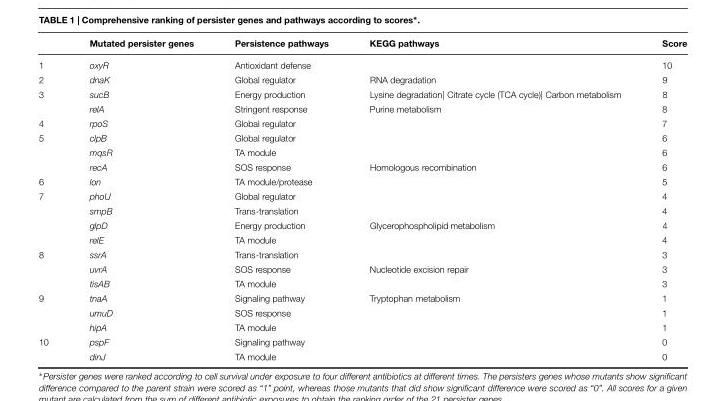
<table><thead><tr><td></td><td>Mutated persister genes</td><td>Persistence pathways</td><td>KEGG pathways</td><td>Score</td></tr></thead><tbody><tr><td>1</td><td>oxyR</td><td>Antioxidant defense</td><td></td><td>10</td></tr><tr><td>2</td><td>dnaK</td><td>Global regulator</td><td>RNA degradation</td><td>9</td></tr><tr><td rowspan="2">3</td><td>sucB</td><td>Energy production</td><td>Lysine degradation| Citrate cycle (TCA cycle)| Carbon metabolism</td><td>8</td></tr><tr><td>relA</td><td>Stringent response</td><td>Purine metabolism</td><td>8</td></tr><tr><td>4</td><td>rpoS</td><td>Global regulator</td><td></td><td>7</td></tr><tr><td rowspan="3">5</td><td>clpB</td><td>Global regulator</td><td></td><td>6</td></tr><tr><td>mqsR</td><td>TA module</td><td></td><td>6</td></tr><tr><td>recA</td><td>SOS response</td><td>Homologous recombination</td><td>6</td></tr><tr><td>6</td><td>lon</td><td>TA module/protease</td><td></td><td>5</td></tr><tr><td rowspan="4">7</td><td>phoU</td><td>Global regulator</td><td></td><td>4</td></tr><tr><td>smpB</td><td>Trans-translation</td><td></td><td>4</td></tr><tr><td>glpD</td><td>Energy production</td><td>Glycerophospholipid metabolism</td><td>4</td></tr><tr><td>relE</td><td>TA module</td><td></td><td>4</td></tr><tr><td rowspan="3">8</td><td>ssrA</td><td>Trans-translation</td><td></td><td>3</td></tr><tr><td>uvrA</td><td>SOS response</td><td>Nucleotide excision repair</td><td>3</td></tr><tr><td>tisAB</td><td>TA module</td><td></td><td>3</td></tr><tr><td rowspan="3">9</td><td>tnaA</td><td>Signaling pathway</td><td>Tryptophan metabolism</td><td>1</td></tr><tr><td>umuD</td><td>SOS response</td><td></td><td>1</td></tr><tr><td>hipA</td><td>TA module</td><td></td><td>1</td></tr><tr><td rowspan="2">10</td><td>pspF</td><td>Signaling pathway</td><td></td><td>0</td></tr><tr><td>dinJ</td><td>TA module</td><td></td><td>0</td></tr></tbody></table>